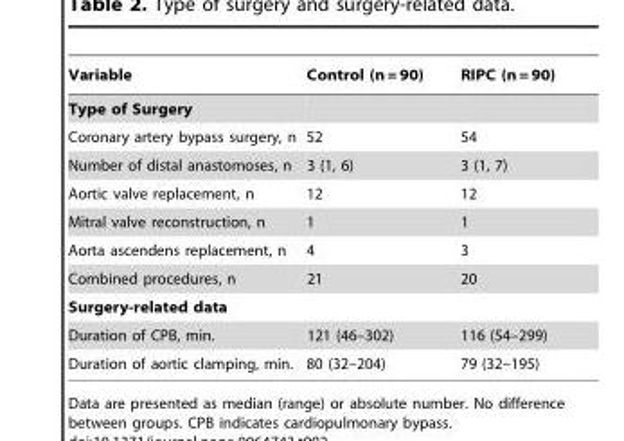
<table><thead><tr><td>Variable</td><td>Control (n = 90)</td><td>RIPC (n = 90)</td></tr></thead><tbody><tr><td colspan="3">Type of Surgery</td></tr><tr><td>Coronary artery bypass surgery, n</td><td>52</td><td>54</td></tr><tr><td>Number of distal anastomoses, n</td><td>3 (1, 6)</td><td>3 (1, 7)</td></tr><tr><td>Aortic valve replacement, n</td><td>12</td><td>12</td></tr><tr><td>Mitral valve reconstruction, n</td><td>1</td><td>1</td></tr><tr><td>Aorta ascendens replacement, n</td><td>4</td><td>3</td></tr><tr><td>Combined procedures, n</td><td>21</td><td>20</td></tr><tr><td colspan="3">Surgery-related data</td></tr><tr><td>Duration of CPB, min.</td><td>121 (46–302)</td><td>116 (54–299)</td></tr><tr><td>Duration of aortic clamping, min.</td><td>80 (32–204)</td><td>79 (32–195)</td></tr></tbody></table>